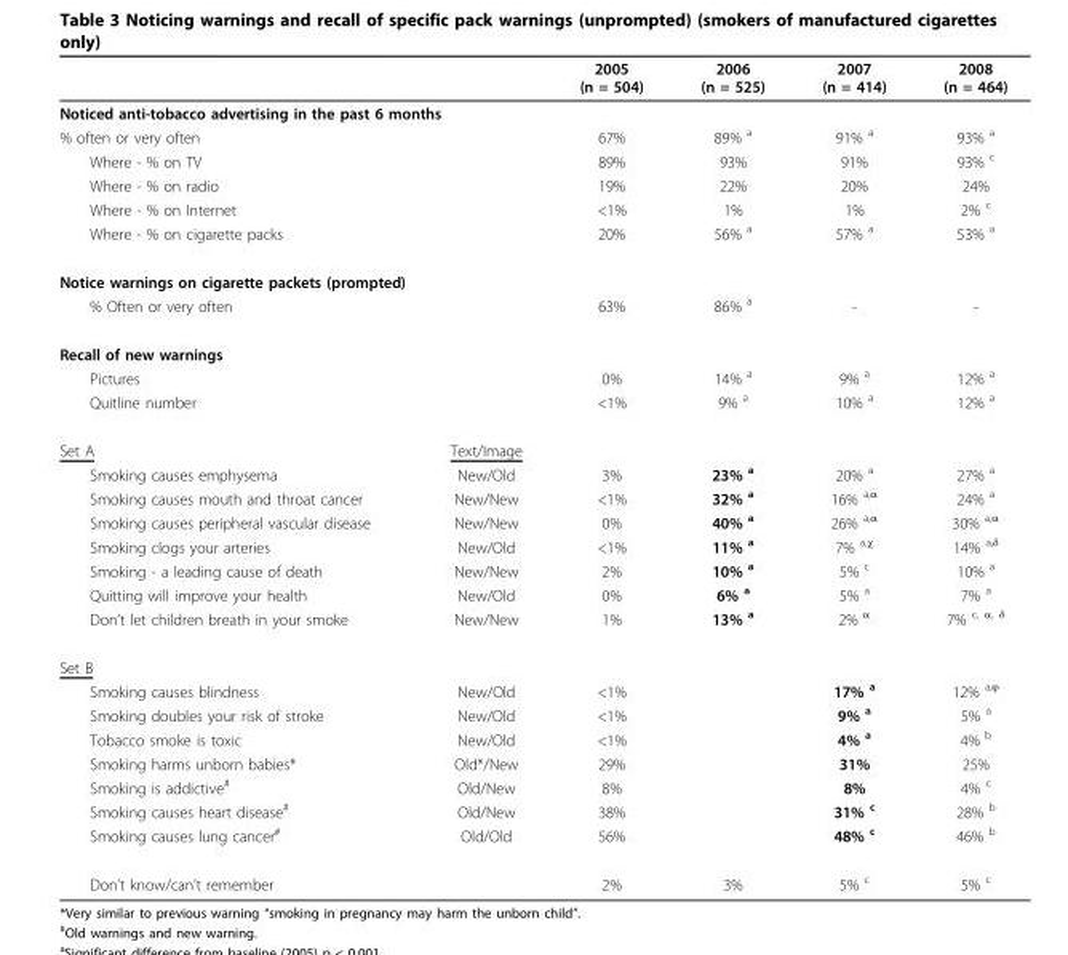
<table><thead><tr><td></td><td></td><td>2005 (n = 504)</td><td>2006 (n = 525)</td><td>2007 (n = 414)</td><td>2008 (n = 464)</td></tr></thead><tbody><tr><td colspan="6">Noticed anti-tobacco advertising in the past 6 months</td></tr><tr><td>% often or very often</td><td></td><td>67%</td><td>89% <sup>a</sup></td><td>91% <sup>a</sup></td><td>93% <sup>a</sup></td></tr><tr><td>Where - % on TV</td><td></td><td>89%</td><td>93%</td><td>91%</td><td>93% <sup>c</sup></td></tr><tr><td>Where - % on radio</td><td></td><td>19%</td><td>22%</td><td>20%</td><td>24%</td></tr><tr><td>Where - % on Internet</td><td></td><td>&lt;1%</td><td>1%</td><td>1%</td><td>2% <sup>c</sup></td></tr><tr><td>Where - % on cigarette packs</td><td></td><td>20%</td><td>56% <sup>a</sup></td><td>57% <sup>a</sup></td><td>53% <sup>a</sup></td></tr><tr><td colspan="6">Notice warnings on cigarette packets (prompted)</td></tr><tr><td>% Often or very often</td><td></td><td>63%</td><td>86% <sup>a</sup></td><td>-</td><td>-</td></tr><tr><td colspan="6">Recall of new warnings</td></tr><tr><td>Pictures</td><td></td><td>0%</td><td>14% <sup>a</sup></td><td>9% <sup>a</sup></td><td>12% <sup>a</sup></td></tr><tr><td>Quitline number</td><td></td><td>&lt;1%</td><td>9% <sup>a</sup></td><td>10% <sup>a</sup></td><td>12% <sup>a</sup></td></tr><tr><td>Set A</td><td>Text/Image</td><td></td><td></td><td></td><td></td></tr><tr><td>Smoking causes emphysema</td><td>New/Old</td><td>3%</td><td>23% <sup>a</sup></td><td>20% <sup>a</sup></td><td>27% <sup>a</sup></td></tr><tr><td>Smoking causes mouth and throat cancer</td><td>New/New</td><td>&lt;1%</td><td>32% <sup>a</sup></td><td>16% <sup>a,α</sup></td><td>24% <sup>a</sup></td></tr><tr><td>Smoking causes peripheral vascular disease</td><td>New/New</td><td>0%</td><td>40% <sup>a</sup></td><td>26% <sup>a,α</sup></td><td>30% <sup>a,α</sup></td></tr><tr><td>Smoking clogs your arteries</td><td>New/Old</td><td>&lt;1%</td><td>11% <sup>a</sup></td><td>7% <sup>a,χ</sup></td><td>14% <sup>a,δ</sup></td></tr><tr><td>Smoking - a leading cause of death</td><td>New/New</td><td>2%</td><td>10% <sup>a</sup></td><td>5% <sup>c</sup></td><td>10% <sup>a</sup></td></tr><tr><td>Quitting will improve your health</td><td>New/Old</td><td>0%</td><td>6% <sup>a</sup></td><td>5% <sup>a</sup></td><td>7% <sup>a</sup></td></tr><tr><td>Don’t let children breath in your smoke</td><td>New/New</td><td>1%</td><td>13% <sup>a</sup></td><td>2% <sup>α</sup></td><td>7% <sup>c, α, δ</sup></td></tr><tr><td colspan="6">Set B</td></tr><tr><td>Smoking causes blindness</td><td>New/Old</td><td>&lt;1%</td><td></td><td>17% <sup>a</sup></td><td>12% <sup>a,ϕ</sup></td></tr><tr><td>Smoking doubles your risk of stroke</td><td>New/Old</td><td>&lt;1%</td><td></td><td>9% <sup>a</sup></td><td>5% <sup>a</sup></td></tr><tr><td>Tobacco smoke is toxic</td><td>New/Old</td><td>&lt;1%</td><td></td><td>4% <sup>a</sup></td><td>4% <sup>b</sup></td></tr><tr><td>Smoking harms unborn babies*</td><td>Old*/New</td><td>29%</td><td></td><td>31%</td><td>25%</td></tr><tr><td>Smoking is addictive<sup>#</sup></td><td>Old/New</td><td>8%</td><td></td><td>8%</td><td>4% <sup>c</sup></td></tr><tr><td>Smoking causes heart disease<sup>#</sup></td><td>Old/New</td><td>38%</td><td></td><td>31% <sup>c</sup></td><td>28% <sup>b</sup></td></tr><tr><td>Smoking causes lung cancer<sup>#</sup></td><td>Old/Old</td><td>56%</td><td></td><td>48% <sup>c</sup></td><td>46% <sup>b</sup></td></tr><tr><td>Don’t know/can’t remember</td><td></td><td>2%</td><td>3%</td><td>5% <sup>c</sup></td><td>5% <sup>c</sup></td></tr></tbody></table>